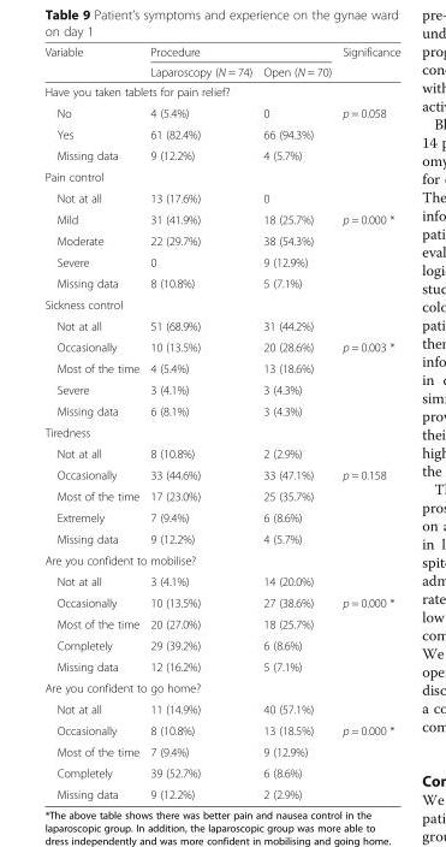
<table><thead><tr><td rowspan="2">Variable</td><td colspan="2">Procedure</td><td rowspan="2">Significance</td></tr><tr><td>Laparoscopy (N = 74)</td><td>Open (N = 70)</td></tr></thead><tbody><tr><td colspan="4">Have you taken tablets for pain relief?</td></tr><tr><td>No</td><td>4 (5.4%)</td><td>0</td><td rowspan="3">p = 0.058</td></tr><tr><td>Yes</td><td>61 (82.4%)</td><td>66 (94.3%)</td></tr><tr><td>Missing data</td><td>9 (12.2%)</td><td>4 (5.7%)</td></tr><tr><td colspan="4">Pain control</td></tr><tr><td>Not at all</td><td>13 (17.6%)</td><td>0</td><td></td></tr><tr><td>Mild</td><td>31 (41.9%)</td><td>18 (25.7%)</td><td>p = 0.000 *</td></tr><tr><td>Moderate</td><td>22 (29.7%)</td><td>38 (54.3%)</td><td rowspan="3"></td></tr><tr><td>Severe</td><td>0</td><td>9 (12.9%)</td></tr><tr><td>Missing data</td><td>8 (10.8%)</td><td>5 (7.1%)</td></tr><tr><td colspan="4">Sickness control</td></tr><tr><td>Not at all</td><td>51 (68.9%)</td><td>31 (44.2%)</td><td></td></tr><tr><td>Occasionally</td><td>10 (13.5%)</td><td>20 (28.6%)</td><td rowspan="4">p = 0.003 *</td></tr><tr><td>Most of the time</td><td>4 (5.4%)</td><td>13 (18.6%)</td></tr><tr><td>Severe</td><td>3 (4.1%)</td><td>3 (4.3%)</td></tr><tr><td>Missing data</td><td>6 (8.1%)</td><td>3 (4.3%)</td></tr><tr><td colspan="4">Tiredness</td></tr><tr><td>Not at all</td><td>8 (10.8%)</td><td>2 (2.9%)</td><td></td></tr><tr><td>Occasionally</td><td>33 (44.6%)</td><td>33 (47.1%)</td><td rowspan="4">p = 0.158</td></tr><tr><td>Most of the time</td><td>17 (23.0%)</td><td>25 (35.7%)</td></tr><tr><td>Extremely</td><td>7 (9.4%)</td><td>6 (8.6%)</td></tr><tr><td>Missing data</td><td>9 (12.2%)</td><td>4 (5.7%)</td></tr><tr><td colspan="4">Are you confident to mobilise?</td></tr><tr><td>Not at all</td><td>3 (4.1%)</td><td>14 (20.0%)</td><td></td></tr><tr><td>Occasionally</td><td>10 (13.5%)</td><td>27 (38.6%)</td><td>p = 0.000 *</td></tr><tr><td>Most of the time</td><td>20 (27.0%)</td><td>18 (25.7%)</td><td rowspan="3"></td></tr><tr><td>Completely</td><td>29 (39.2%)</td><td>6 (8.6%)</td></tr><tr><td>Missing data</td><td>12 (16.2%)</td><td>5 (7.1%)</td></tr><tr><td colspan="4">Are you confident to go home?</td></tr><tr><td>Not at all</td><td>11 (14.9%)</td><td>40 (57.1%)</td><td></td></tr><tr><td>Occasionally</td><td>8 (10.8%)</td><td>13 (18.5%)</td><td>p = 0.000 *</td></tr><tr><td>Most of the time</td><td>7 (9.4%)</td><td>9 (12.9%)</td><td rowspan="3"></td></tr><tr><td>Completely</td><td>39 (52.7%)</td><td>6 (8.6%)</td></tr><tr><td>Missing data</td><td>9 (12.2%)</td><td>2 (2.9%)</td></tr></tbody></table>